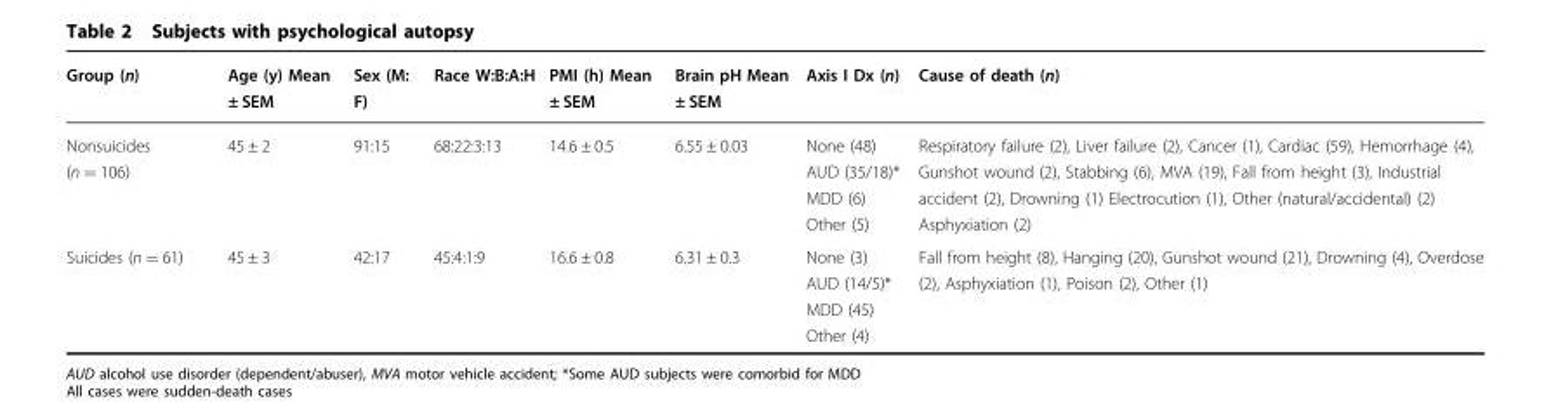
<table><thead><tr><td>Group (n)</td><td>Age (y) Mean ± SEM</td><td>Sex (M: F)</td><td>Race W:B:A:H</td><td>PMI (h) Mean ± SEM</td><td>Brain pH Mean ± SEM</td><td>Axis I Dx (n)</td><td>Cause of death (n)</td></tr></thead><tbody><tr><td>Nonsuicides (n = 106)</td><td>45 ± 2</td><td>91:15</td><td>68:22:3:13</td><td>14.6 ± 0.5</td><td>6.55 ± 0.03</td><td>None (48) AUD (35/18)* MDD (6) Other (5)</td><td>Respiratory failure (2), Liver failure (2), Cancer (1), Cardiac (59), Hemorrhage (4), Gunshot wound (2), Stabbing (6), MVA (19), Fall from height (3), Industrial accident (2), Drowning (1) Electrocution (1), Other (natural/accidental) (2) Asphyxiation (2)</td></tr><tr><td>Suicides (n = 61)</td><td>45 ± 3</td><td>42:17</td><td>45:4:1:9</td><td>16.6 ± 0.8</td><td>6.31 ± 0.3</td><td>None (3) AUD (14/5)* MDD (45) Other (4)</td><td>Fall from height (8), Hanging (20), Gunshot wound (21), Drowning (4), Overdose (2), Asphyxiation (1), Poison (2), Other (1)</td></tr></tbody></table>